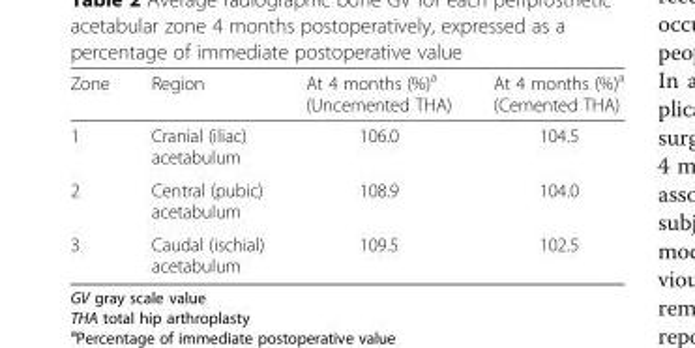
<table><thead><tr><td>Zone</td><td>Region</td><td>At 4 months (%)<sup>a</sup> (Uncemented THA)</td><td>At 4 months (%)<sup>a</sup> (Cemented THA)</td></tr></thead><tbody><tr><td>1</td><td>Cranial (iliac) acetabulum</td><td>106.0</td><td>104.5</td></tr><tr><td>2</td><td>Central (pubic) acetabulum</td><td>108.9</td><td>104.0</td></tr><tr><td>3</td><td>Caudal (ischial) acetabulum</td><td>109.5</td><td>102.5</td></tr></tbody></table>